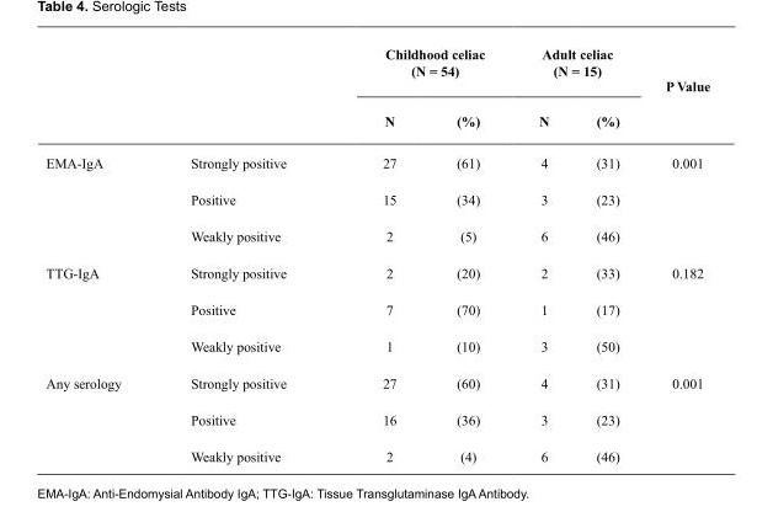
<table><thead><tr><td rowspan="2"></td><td rowspan="2"></td><td colspan="2">Childhood celiac (N = 54)</td><td colspan="2">Adult celiac (N = 15)</td><td rowspan="2">P Value</td></tr><tr><td>N</td><td>(%)</td><td>N</td><td>(%)</td></tr></thead><tbody><tr><td rowspan="3">EMA-IgA</td><td>Strongly positive</td><td>27</td><td>(61)</td><td>4</td><td>(31)</td><td>0.001</td></tr><tr><td>Positive</td><td>15</td><td>(34)</td><td>3</td><td>(23)</td><td></td></tr><tr><td>Weakly positive</td><td>2</td><td>(5)</td><td>6</td><td>(46)</td><td></td></tr><tr><td rowspan="3">TTG-IgA</td><td>Strongly positive</td><td>2</td><td>(20)</td><td>2</td><td>(33)</td><td>0.182</td></tr><tr><td>Positive</td><td>7</td><td>(70)</td><td>1</td><td>(17)</td><td></td></tr><tr><td>Weakly positive</td><td>1</td><td>(10)</td><td>3</td><td>(50)</td><td></td></tr><tr><td rowspan="3">Any serology</td><td>Strongly positive</td><td>27</td><td>(60)</td><td>4</td><td>(31)</td><td>0.001</td></tr><tr><td>Positive</td><td>16</td><td>(36)</td><td>3</td><td>(23)</td><td></td></tr><tr><td>Weakly positive</td><td>2</td><td>(4)</td><td>6</td><td>(46)</td><td></td></tr></tbody></table>